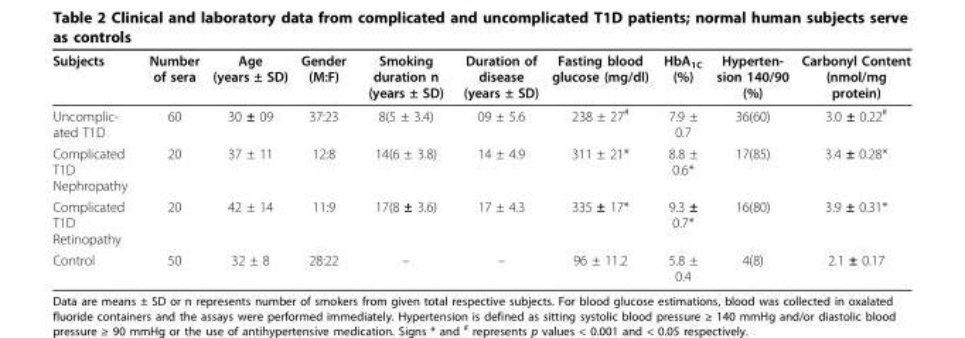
<table><thead><tr><td>Subjects</td><td>Number of sera</td><td>Age (years ± SD)</td><td>Gender (M:F)</td><td>Smoking duration n (years ± SD)</td><td>Duration of disease (years ± SD)</td><td>Fasting blood glucose (mg/dl)</td><td>HbA<sub>1C</sub> (%)</td><td>Hyperten- sion 140/90 (%)</td><td>Carbonyl Content (nmol/mg protein)</td></tr></thead><tbody><tr><td>Uncomplic- ated T1D</td><td>60</td><td>30 ± 09</td><td>37:23</td><td>8(5 ± 3.4)</td><td>09 ± 5.6</td><td>238 ± 27<sup>#</sup></td><td>7.9 ± 0.7</td><td>36(60)</td><td>3.0 ± 0.22<sup>#</sup></td></tr><tr><td>Complicated T1D Nephropathy</td><td>20</td><td>37 ± 11</td><td>12:8</td><td>14(6 ± 3.8)</td><td>14 ± 4.9</td><td>311 ± 21*</td><td>8.8 ± 0.6*</td><td>17(85)</td><td>3.4 ± 0.28*</td></tr><tr><td>Complicated T1D Retinopathy</td><td>20</td><td>42 ± 14</td><td>11:9</td><td>17(8 ± 3.6)</td><td>17 ± 4.3</td><td>335 ± 17*</td><td>9.3 ± 0.7*</td><td>16(80)</td><td>3.9 ± 0.31*</td></tr><tr><td>Control</td><td>50</td><td>32 ± 8</td><td>28:22</td><td>–</td><td>–</td><td>96 ± 11.2</td><td>5.8 ± 0.4</td><td>4(8)</td><td>2.1 ± 0.17</td></tr></tbody></table>